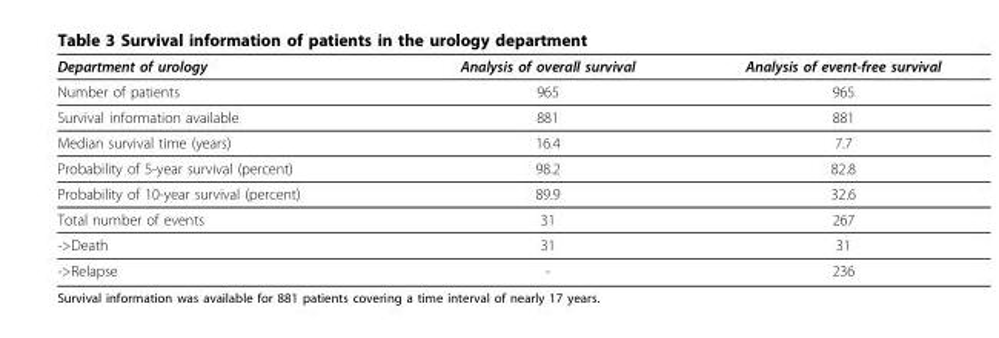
<table><thead><tr><td>Department of urology</td><td>Analysis of overall survival</td><td>Analysis of event-free survival</td></tr></thead><tbody><tr><td>Number of patients</td><td>965</td><td>965</td></tr><tr><td>Survival information available</td><td>881</td><td>881</td></tr><tr><td>Median survival time (years)</td><td>16.4</td><td>7.7</td></tr><tr><td>Probability of 5-year survival (percent)</td><td>98.2</td><td>82.8</td></tr><tr><td>Probability of 10-year survival (percent)</td><td>89.9</td><td>32.6</td></tr><tr><td>Total number of events</td><td>31</td><td>267</td></tr><tr><td>-&gt;Death</td><td>31</td><td>31</td></tr><tr><td>-&gt;Relapse</td><td>-</td><td>236</td></tr></tbody></table>